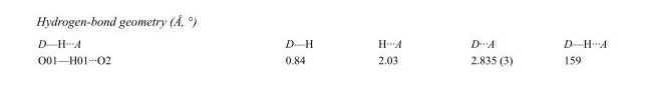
<table><tbody><tr><td>D—H···A</td><td>D—H</td><td>H···A</td><td>D···A</td><td>D—H···A</td></tr><tr><td>O01—H01···O2</td><td>0.84</td><td>2.03</td><td>2.835 (3)</td><td>159</td></tr></tbody></table>